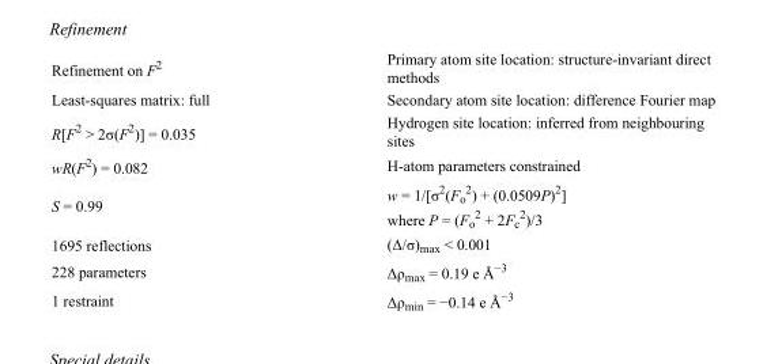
<table><tbody><tr><td>Refinement on F<sup>2</sup></td><td>Primary atom site location: structure-invariant direct methods</td></tr><tr><td>Least-squares matrix: full</td><td>Secondary atom site location: difference Fourier map</td></tr><tr><td>R[F<sup>2</sup> &gt; 2σ(F<sup>2</sup>)] = 0.035</td><td>Hydrogen site location: inferred from neighbouring sites</td></tr><tr><td>wR(F<sup>2</sup>) = 0.082</td><td>H-atom parameters constrained</td></tr><tr><td>S = 0.99</td><td>w = 1/[σ<sup>2</sup>(F<sub>o</sub> <sup>2</sup>) + (0.0509P)<sup>2</sup>] where P = (F<sub>o</sub> <sup>2</sup> + 2F<sub>c</sub> <sup>2</sup>)/3</td></tr><tr><td>1695 reflections</td><td>(Δ/σ)<sub>max</sub> &lt; 0.001</td></tr><tr><td>228 parameters</td><td>Δρ<sub>max</sub> = 0.19 e Å<sup>−3</sup></td></tr><tr><td>1 restraint</td><td>Δρ<sub>min</sub> = −0.14 e Å<sup>−3</sup></td></tr></tbody></table>